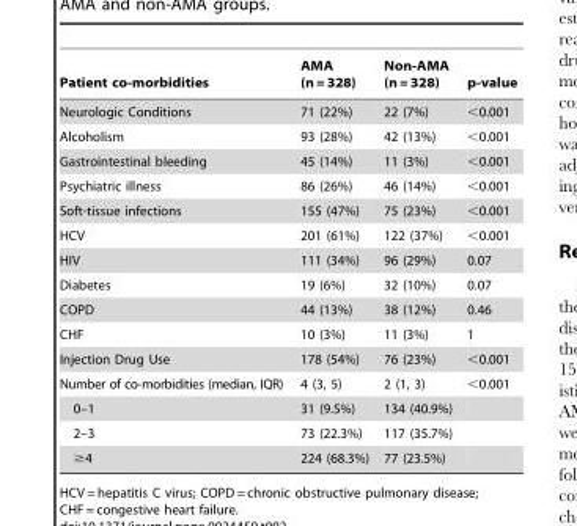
<table><thead><tr><td>Patient co-morbidities</td><td>AMA (n = 328)</td><td>Non-AMA (n = 328)</td><td>p-value</td></tr></thead><tbody><tr><td>Neurologic Conditions</td><td>71 (22%)</td><td>22 (7%)</td><td>&lt;0.001</td></tr><tr><td>Alcoholism</td><td>93 (28%)</td><td>42 (13%)</td><td>&lt;0.001</td></tr><tr><td>Gastrointestinal bleeding</td><td>45 (14%)</td><td>11 (3%)</td><td>&lt;0.001</td></tr><tr><td>Psychiatric illness</td><td>86 (26%)</td><td>46 (14%)</td><td>&lt;0.001</td></tr><tr><td>Soft-tissue infections</td><td>155 (47%)</td><td>75 (23%)</td><td>&lt;0.001</td></tr><tr><td>HCV</td><td>201 (61%)</td><td>122 (37%)</td><td>&lt;0.001</td></tr><tr><td>HIV</td><td>111 (34%)</td><td>96 (29%)</td><td>0.07</td></tr><tr><td>Diabetes</td><td>19 (6%)</td><td>32 (10%)</td><td>0.07</td></tr><tr><td>COPD</td><td>44 (13%)</td><td>38 (12%)</td><td>0.46</td></tr><tr><td>CHF</td><td>10 (3%)</td><td>11 (3%)</td><td>1</td></tr><tr><td>Injection Drug Use</td><td>178 (54%)</td><td>76 (23%)</td><td>&lt;0.001</td></tr><tr><td>Number of co-morbidities (median, IQR)</td><td>4 (3, 5)</td><td>2 (1, 3)</td><td>&lt;0.001</td></tr><tr><td>0–1</td><td>31 (9.5%)</td><td>134 (40.9%)</td><td></td></tr><tr><td>2–3</td><td>73 (22.3%)</td><td>117 (35.7%)</td><td></td></tr><tr><td>≥4</td><td>224 (68.3%)</td><td>77 (23.5%)</td><td></td></tr></tbody></table>